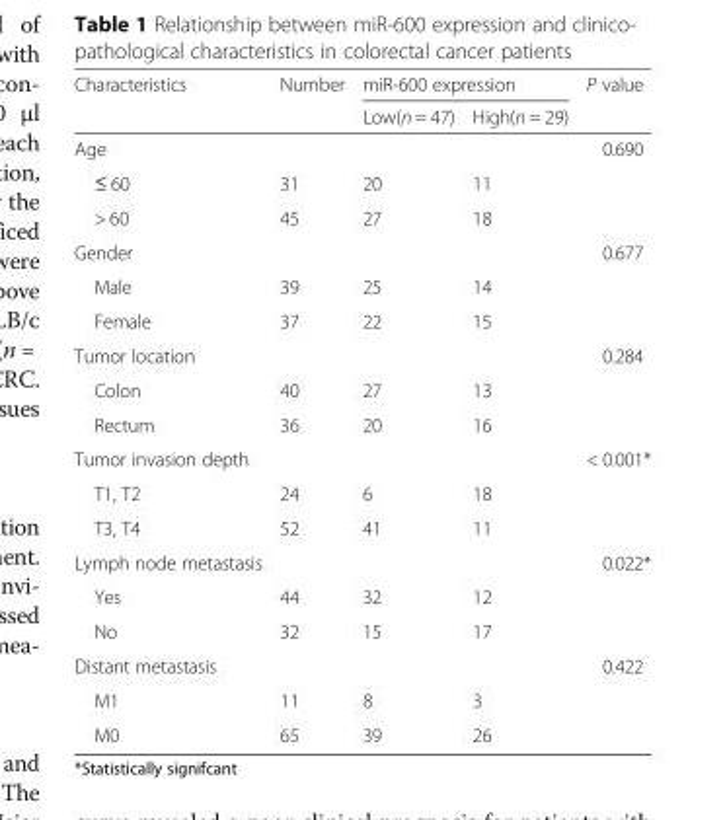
<table><thead><tr><td rowspan="2">Characteristics</td><td rowspan="2">Number</td><td colspan="2">miR-600 expression</td><td rowspan="2">P value</td></tr><tr><td>Low(n = 47)</td><td>High(n = 29)</td></tr></thead><tbody><tr><td>Age</td><td></td><td></td><td></td><td>0.690</td></tr><tr><td>≤ 60</td><td>31</td><td>20</td><td>11</td><td></td></tr><tr><td>&gt; 60</td><td>45</td><td>27</td><td>18</td><td></td></tr><tr><td>Gender</td><td></td><td></td><td></td><td>0.677</td></tr><tr><td>Male</td><td>39</td><td>25</td><td>14</td><td></td></tr><tr><td>Female</td><td>37</td><td>22</td><td>15</td><td></td></tr><tr><td>Tumor location</td><td></td><td></td><td></td><td>0.284</td></tr><tr><td>Colon</td><td>40</td><td>27</td><td>13</td><td></td></tr><tr><td>Rectum</td><td>36</td><td>20</td><td>16</td><td></td></tr><tr><td>Tumor invasion depth</td><td></td><td></td><td></td><td>&lt; 0.001*</td></tr><tr><td>T1, T2</td><td>24</td><td>6</td><td>18</td><td></td></tr><tr><td>T3, T4</td><td>52</td><td>41</td><td>11</td><td></td></tr><tr><td>Lymph node metastasis</td><td></td><td></td><td></td><td>0.022*</td></tr><tr><td>Yes</td><td>44</td><td>32</td><td>12</td><td></td></tr><tr><td>No</td><td>32</td><td>15</td><td>17</td><td></td></tr><tr><td>Distant metastasis</td><td></td><td></td><td></td><td>0.422</td></tr><tr><td>M1</td><td>11</td><td>8</td><td>3</td><td></td></tr><tr><td>M0</td><td>65</td><td>39</td><td>26</td><td></td></tr></tbody></table>